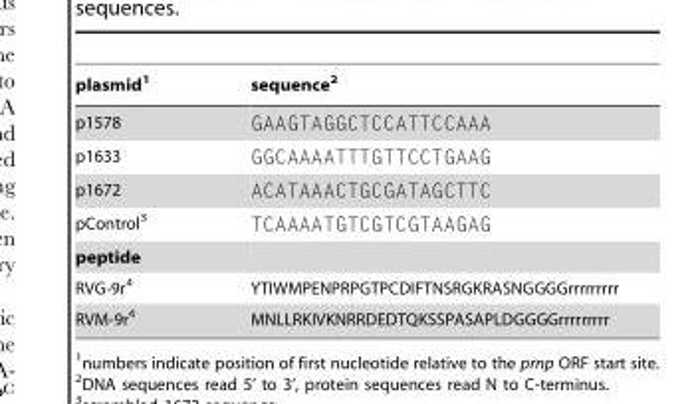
<table><thead><tr><td>plasmid<sup>1</sup></td><td>sequence<sup>2</sup></td></tr></thead><tbody><tr><td>p1578</td><td>GAAGTAGGCTCCATTCCAAA</td></tr><tr><td>p1633</td><td>GGCAAAATTTGTTCCTGAAG</td></tr><tr><td>p1672</td><td>ACATAAACTGCGATAGCTTC</td></tr><tr><td>pControl<sup>3</sup></td><td>TCAAAATGTCGTCGTAAGAG</td></tr><tr><td colspan="2">peptide</td></tr><tr><td>RVG-9r<sup>4</sup></td><td>YTIWMPENPRPGTPCDIFTNSRGKRASNGGGGrrrrrrrrr</td></tr><tr><td>RVM-9r<sup>4</sup></td><td>MNLLRKIVKNRRDEDTQKSSPASAPLDGGGGrrrrrrrrr</td></tr></tbody></table>